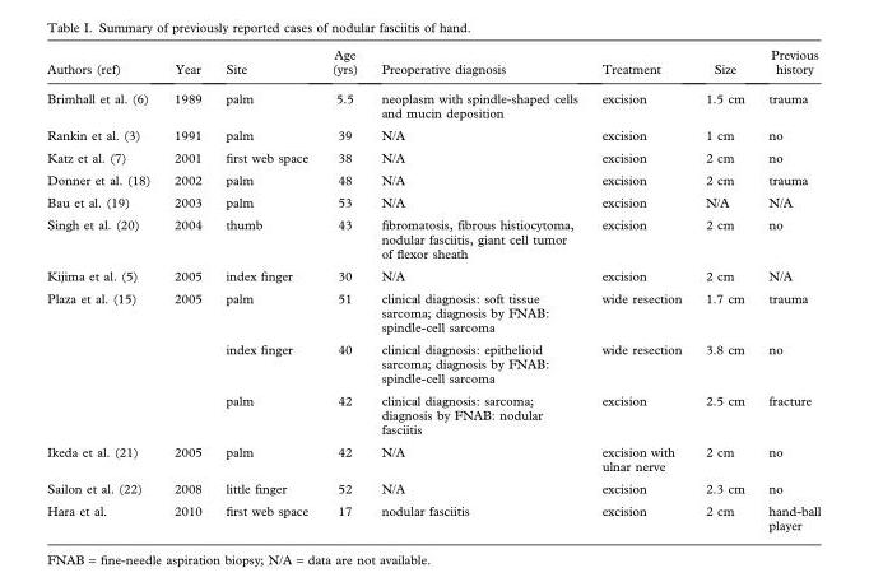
<table><thead><tr><td>Authors (ref)</td><td>Year</td><td>Site</td><td>Age (yrs)</td><td>Preoperative diagnosis</td><td>Treatment</td><td>Size</td><td>Previous history</td></tr></thead><tbody><tr><td>Brimhall et al. (6)</td><td>1989</td><td>palm</td><td>5.5</td><td>neoplasm with spindle-shaped cells and mucin deposition</td><td>excision</td><td>1.5 cm</td><td>trauma</td></tr><tr><td>Rankin et al. (3)</td><td>1991</td><td>palm</td><td>39</td><td>N/A</td><td>excision</td><td>1 cm</td><td>no</td></tr><tr><td>Katz et al. (7)</td><td>2001</td><td>first web space</td><td>38</td><td>N/A</td><td>excision</td><td>2 cm</td><td>no</td></tr><tr><td>Donner et al. (18)</td><td>2002</td><td>palm</td><td>48</td><td>N/A</td><td>excision</td><td>2 cm</td><td>trauma</td></tr><tr><td>Bau et al. (19)</td><td>2003</td><td>palm</td><td>53</td><td>N/A</td><td>excision</td><td>N/A</td><td>N/A</td></tr><tr><td>Singh et al. (20)</td><td>2004</td><td>thumb</td><td>43</td><td>fibromatosis, fibrous histiocytoma, nodular fasciitis, giant cell tumor of flexor sheath</td><td>excision</td><td>2 cm</td><td>no</td></tr><tr><td>Kijima et al. (5)</td><td>2005</td><td>index finger</td><td>30</td><td>N/A</td><td>excision</td><td>2 cm</td><td>N/A</td></tr><tr><td rowspan="3">Plaza et al. (15)</td><td>2005</td><td>palm</td><td>51</td><td>clinical diagnosis: soft tissue sarcoma; diagnosis by FNAB: spindle-cell sarcoma</td><td>wide resection</td><td>1.7 cm</td><td>trauma</td></tr><tr><td></td><td>index finger</td><td>40</td><td>clinical diagnosis: epithelioid sarcoma; diagnosis by FNAB: spindle-cell sarcoma</td><td>wide resection</td><td>3.8 cm</td><td>no</td></tr><tr><td></td><td>palm</td><td>42</td><td>clinical diagnosis: sarcoma; diagnosis by FNAB: nodular fasciitis</td><td>excision</td><td>2.5 cm</td><td>fracture</td></tr><tr><td>Ikeda et al. (21)</td><td>2005</td><td>palm</td><td>42</td><td>N/A</td><td>excision with ulnar nerve</td><td>2 cm</td><td>no</td></tr><tr><td>Sailon et al. (22)</td><td>2008</td><td>little finger</td><td>52</td><td>N/A</td><td>excision</td><td>2.3 cm</td><td>no</td></tr><tr><td>Hara et al.</td><td>2010</td><td>first web space</td><td>17</td><td>nodular fasciitis</td><td>excision</td><td>2 cm</td><td>hand-ball player</td></tr></tbody></table>